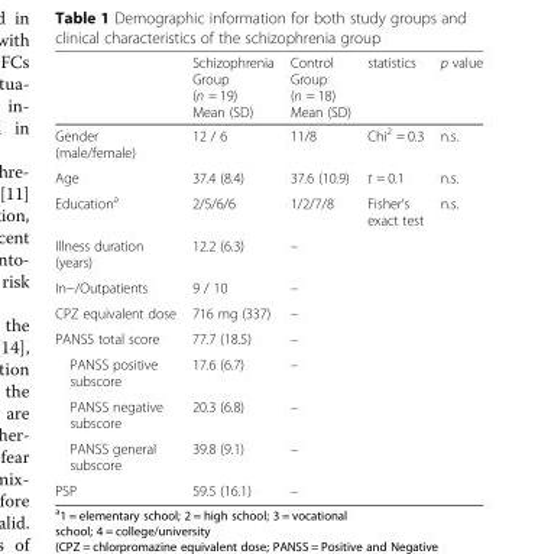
<table><thead><tr><td></td><td>Schizophrenia Group (n = 19) Mean (SD)</td><td>Control Group (n = 18) Mean (SD)</td><td>statistics</td><td>p value</td></tr></thead><tbody><tr><td>Gender (male/female)</td><td>12 / 6</td><td>11/8</td><td>Chi<sup>2</sup> = 0.3</td><td>n.s.</td></tr><tr><td>Age</td><td>37.4 (8.4)</td><td>37.6 (10.9)</td><td>t = 0.1</td><td>n.s.</td></tr><tr><td>Education<sup>a</sup></td><td>2/5/6/6</td><td>1/2/7/8</td><td>Fisher’s exact test</td><td>n.s.</td></tr><tr><td>Illness duration (years)</td><td>12.2 (6.3)</td><td>–</td><td></td><td></td></tr><tr><td>In−/Outpatients</td><td>9 / 10</td><td>–</td><td></td><td></td></tr><tr><td>CPZ equivalent dose</td><td>716 mg (337)</td><td>–</td><td></td><td></td></tr><tr><td>PANSS total score</td><td>77.7 (18.5)</td><td>–</td><td></td><td></td></tr><tr><td>PANSS positive subscore</td><td>17.6 (6.7)</td><td>–</td><td></td><td></td></tr><tr><td>PANSS negative subscore</td><td>20.3 (6.8)</td><td>–</td><td></td><td></td></tr><tr><td>PANSS general subscore</td><td>39.8 (9.1)</td><td>–</td><td></td><td></td></tr><tr><td>PSP</td><td>59.5 (16.1)</td><td>–</td><td></td><td></td></tr></tbody></table>